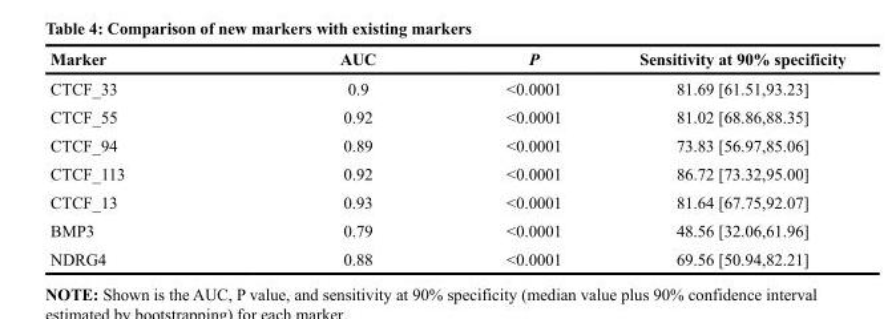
<table><thead><tr><td>Marker</td><td>AUC</td><td>P</td><td>Sensitivity at 90% specificity</td></tr></thead><tbody><tr><td>CTCF_33</td><td>0.9</td><td>&lt;0.0001</td><td>81.69 [61.51,93.23]</td></tr><tr><td>CTCF_55</td><td>0.92</td><td>&lt;0.0001</td><td>81.02 [68.86,88.35]</td></tr><tr><td>CTCF_94</td><td>0.89</td><td>&lt;0.0001</td><td>73.83 [56.97,85.06]</td></tr><tr><td>CTCF_113</td><td>0.92</td><td>&lt;0.0001</td><td>86.72 [73.32,95.00]</td></tr><tr><td>CTCF_13</td><td>0.93</td><td>&lt;0.0001</td><td>81.64 [67.75,92.07]</td></tr><tr><td>BMP3</td><td>0.79</td><td>&lt;0.0001</td><td>48.56 [32.06,61.96]</td></tr><tr><td>NDRG4</td><td>0.88</td><td>&lt;0.0001</td><td>69.56 [50.94,82.21]</td></tr></tbody></table>